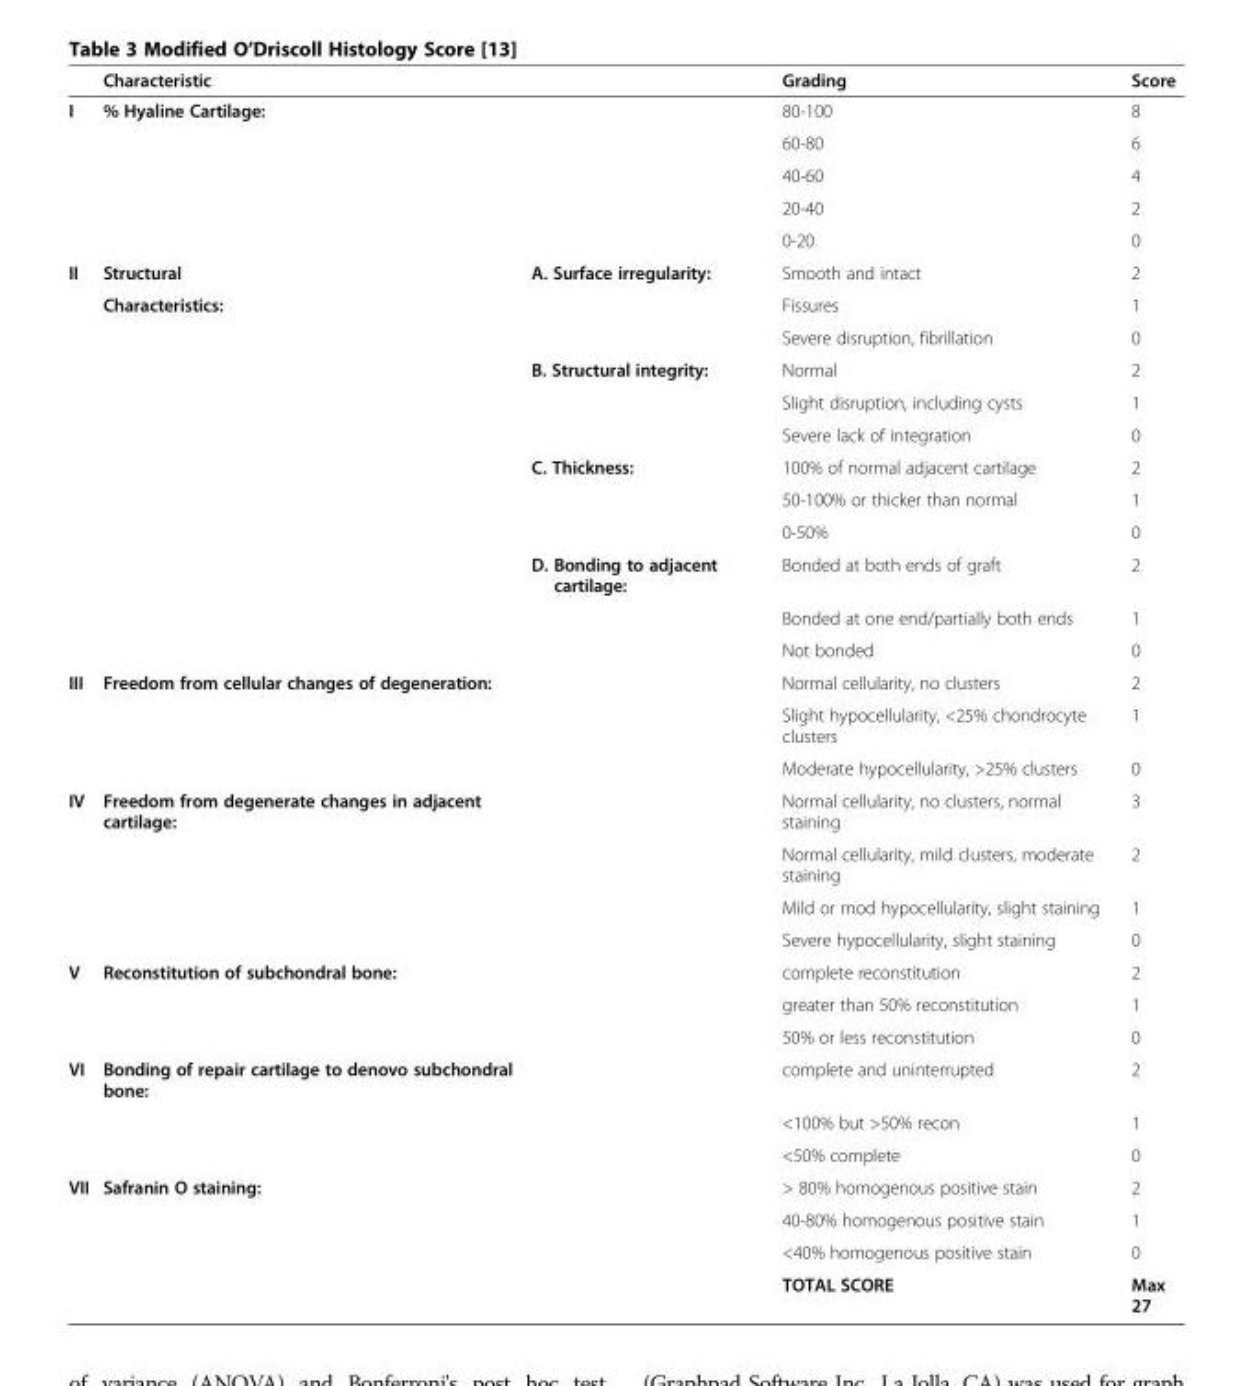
<table><thead><tr><td></td><td>Characteristic</td><td></td><td>Grading</td><td>Score</td></tr></thead><tbody><tr><td rowspan="5">I</td><td>% Hyaline Cartilage:</td><td></td><td>80-100</td><td>8</td></tr><tr><td></td><td></td><td>60-80</td><td>6</td></tr><tr><td></td><td></td><td>40-60</td><td>4</td></tr><tr><td></td><td></td><td>20-40</td><td>2</td></tr><tr><td></td><td></td><td>0-20</td><td>0</td></tr><tr><td rowspan="12">II</td><td>Structural</td><td>A. Surface irregularity:</td><td>Smooth and intact</td><td>2</td></tr><tr><td>Characteristics:</td><td></td><td>Fissures</td><td>1</td></tr><tr><td></td><td></td><td>Severe disruption, fibrillation</td><td>0</td></tr><tr><td></td><td>B. Structural integrity:</td><td>Normal</td><td>2</td></tr><tr><td></td><td></td><td>Slight disruption, including cysts</td><td>1</td></tr><tr><td></td><td></td><td>Severe lack of integration</td><td>0</td></tr><tr><td></td><td>C. Thickness:</td><td>100% of normal adjacent cartilage</td><td>2</td></tr><tr><td></td><td></td><td>50-100% or thicker than normal</td><td>1</td></tr><tr><td></td><td></td><td>0-50%</td><td>0</td></tr><tr><td></td><td>D. Bonding to adjacent cartilage:</td><td>Bonded at both ends of graft</td><td>2</td></tr><tr><td></td><td></td><td>Bonded at one end/partially both ends</td><td>1</td></tr><tr><td></td><td></td><td>Not bonded</td><td>0</td></tr><tr><td rowspan="3">III</td><td>Freedom from cellular changes of degeneration:</td><td></td><td>Normal cellularity, no clusters</td><td>2</td></tr><tr><td></td><td></td><td>Slight hypocellularity, &lt;25% chondrocyte clusters</td><td>1</td></tr><tr><td></td><td></td><td>Moderate hypocellularity, &gt;25% clusters</td><td>0</td></tr><tr><td rowspan="4">IV</td><td>Freedom from degenerate changes in adjacent cartilage:</td><td></td><td>Normal cellularity, no clusters, normal staining</td><td>3</td></tr><tr><td></td><td></td><td>Normal cellularity, mild clusters, moderate staining</td><td>2</td></tr><tr><td></td><td></td><td>Mild or mod hypocellularity, slight staining</td><td>1</td></tr><tr><td></td><td></td><td>Severe hypocellularity, slight staining</td><td>0</td></tr><tr><td rowspan="3">V</td><td>Reconstitution of subchondral bone:</td><td></td><td>complete reconstitution</td><td>2</td></tr><tr><td></td><td></td><td>greater than 50% reconstitution</td><td>1</td></tr><tr><td></td><td></td><td>50% or less reconstitution</td><td>0</td></tr><tr><td rowspan="3">VI</td><td>Bonding of repair cartilage to denovo subchondral bone:</td><td></td><td>complete and uninterrupted</td><td>2</td></tr><tr><td></td><td></td><td>&lt;100% but &gt;50% recon</td><td>1</td></tr><tr><td></td><td></td><td>&lt;50% complete</td><td>0</td></tr><tr><td rowspan="4">VII</td><td>Safranin O staining:</td><td></td><td>&gt; 80% homogenous positive stain</td><td>2</td></tr><tr><td></td><td></td><td>40-80% homogenous positive stain</td><td>1</td></tr><tr><td></td><td></td><td>&lt;40% homogenous positive stain</td><td>0</td></tr><tr><td></td><td></td><td>TOTAL SCORE</td><td>Max 27</td></tr></tbody></table>